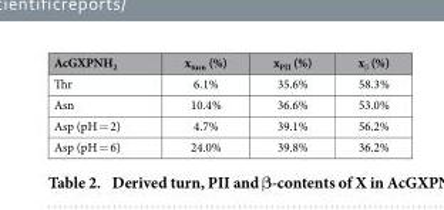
<table><thead><tr><td>AcGXPNH<sub>2</sub></td><td>x<sub>turn</sub> (%)</td><td>x<sub>PII</sub> (%)</td><td>x<sub>β</sub> (%)</td></tr></thead><tbody><tr><td>Thr</td><td>6.1%</td><td>35.6%</td><td>58.3%</td></tr><tr><td>Asn</td><td>10.4%</td><td>36.6%</td><td>53.0%</td></tr><tr><td>Asp (pH = 2)</td><td>4.7%</td><td>39.1%</td><td>56.2%</td></tr><tr><td>Asp (pH = 6)</td><td>24.0%</td><td>39.8%</td><td>36.2%</td></tr></tbody></table>